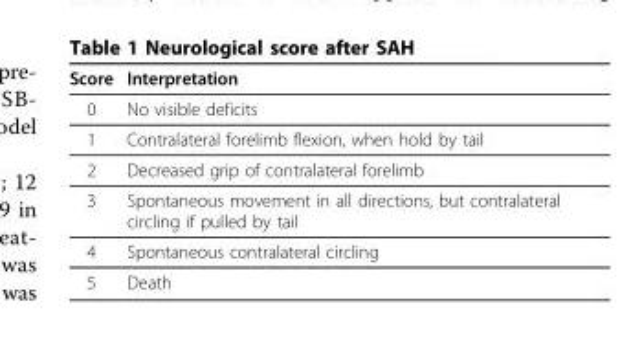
<table><thead><tr><td>Score</td><td>Interpretation</td></tr></thead><tbody><tr><td>0</td><td>No visible deficits</td></tr><tr><td>1</td><td>Contralateral forelimb flexion, when hold by tail</td></tr><tr><td>2</td><td>Decreased grip of contralateral forelimb</td></tr><tr><td>3</td><td>Spontaneous movement in all directions, but contralateral circling if pulled by tail</td></tr><tr><td>4</td><td>Spontaneous contralateral circling</td></tr><tr><td>5</td><td>Death</td></tr></tbody></table>